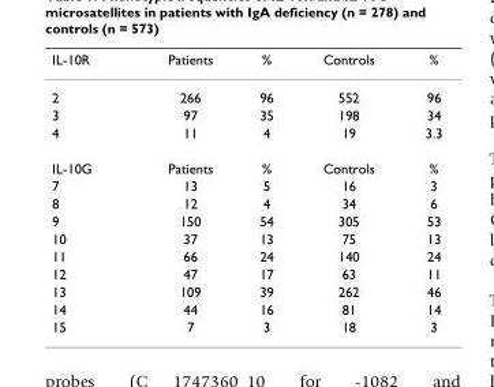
<table><thead><tr><td>IL-10R</td><td>Patients</td><td>%</td><td>Controls</td><td>%</td></tr></thead><tbody><tr><td>2</td><td>266</td><td>96</td><td>552</td><td>96</td></tr><tr><td>3</td><td>97</td><td>35</td><td>198</td><td>34</td></tr><tr><td>4</td><td>11</td><td>4</td><td>19</td><td>3.3</td></tr><tr><td>IL-10G</td><td>Patients</td><td>%</td><td>Controls</td><td>%</td></tr><tr><td>7</td><td>13</td><td>5</td><td>16</td><td>3</td></tr><tr><td>8</td><td>12</td><td>4</td><td>34</td><td>6</td></tr><tr><td>9</td><td>150</td><td>54</td><td>305</td><td>53</td></tr><tr><td>10</td><td>37</td><td>13</td><td>75</td><td>13</td></tr><tr><td>11</td><td>66</td><td>24</td><td>140</td><td>24</td></tr><tr><td>12</td><td>47</td><td>17</td><td>63</td><td>11</td></tr><tr><td>13</td><td>109</td><td>39</td><td>262</td><td>46</td></tr><tr><td>14</td><td>44</td><td>16</td><td>81</td><td>14</td></tr><tr><td>15</td><td>7</td><td>3</td><td>18</td><td>3</td></tr></tbody></table>